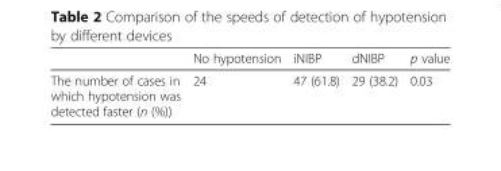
<table><thead><tr><td></td><td>No hypotension</td><td>iNIBP</td><td>dNIBP</td><td>p value</td></tr></thead><tbody><tr><td>The number of cases in which hypotension was detected faster (n (%))</td><td>24</td><td>47 (61.8)</td><td>29 (38.2)</td><td>0.03</td></tr></tbody></table>